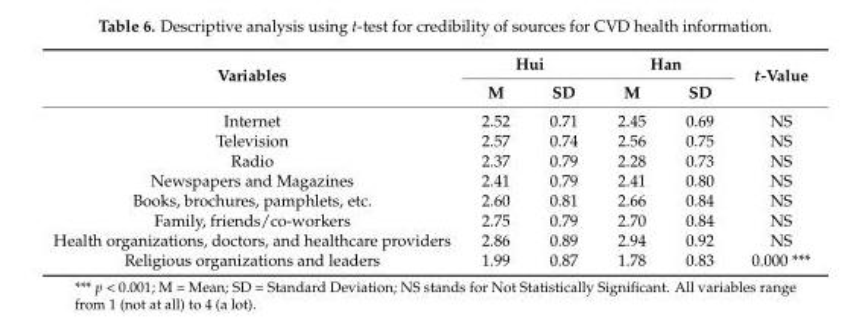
<table><thead><tr><td rowspan="2">Variables</td><td colspan="2">Hui</td><td colspan="2">Han</td><td rowspan="2">t-Value</td></tr><tr><td>M</td><td>SD</td><td>M</td><td>SD</td></tr></thead><tbody><tr><td>Internet</td><td>2.52</td><td>0.71</td><td>2.45</td><td>0.69</td><td>NS</td></tr><tr><td>Television</td><td>2.57</td><td>0.74</td><td>2.56</td><td>0.75</td><td>NS</td></tr><tr><td>Radio</td><td>2.37</td><td>0.79</td><td>2.28</td><td>0.73</td><td>NS</td></tr><tr><td>Newspapers and Magazines</td><td>2.41</td><td>0.79</td><td>2.41</td><td>0.80</td><td>NS</td></tr><tr><td>Books, brochures, pamphlets, etc.</td><td>2.60</td><td>0.81</td><td>2.66</td><td>0.84</td><td>NS</td></tr><tr><td>Family, friends/co-workers</td><td>2.75</td><td>0.79</td><td>2.70</td><td>0.84</td><td>NS</td></tr><tr><td>Health organizations, doctors, and healthcare providers</td><td>2.86</td><td>0.89</td><td>2.94</td><td>0.92</td><td>NS</td></tr><tr><td>Religious organizations and leaders</td><td>1.99</td><td>0.87</td><td>1.78</td><td>0.83</td><td>0.000 ***</td></tr></tbody></table>